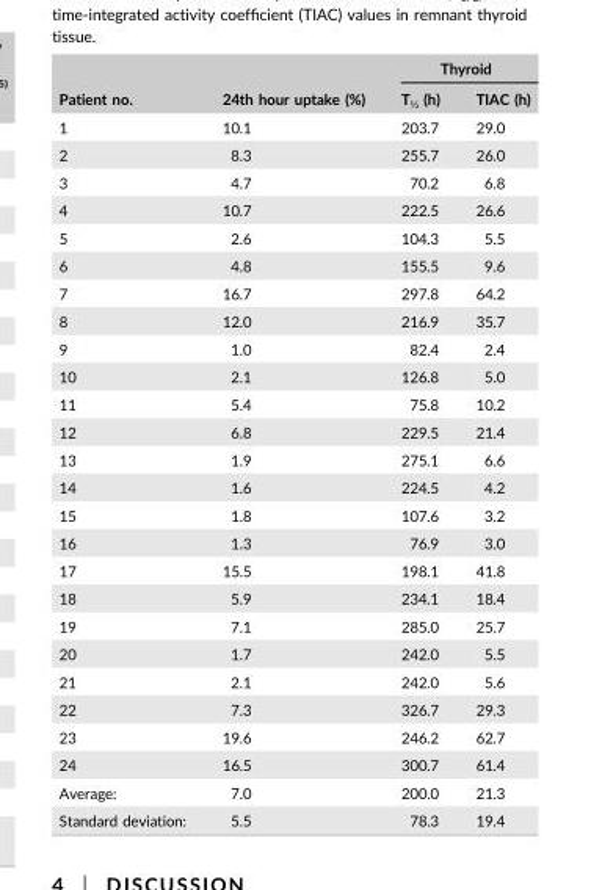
<table><thead><tr><td rowspan="2">Patient no.</td><td rowspan="2">24th hour uptake (%)</td><td colspan="2">Thyroid</td></tr><tr><td>T<sub>½</sub> (h)</td><td>TIAC (h)</td></tr></thead><tbody><tr><td>1</td><td>10.1</td><td>203.7</td><td>29.0</td></tr><tr><td>2</td><td>8.3</td><td>255.7</td><td>26.0</td></tr><tr><td>3</td><td>4.7</td><td>70.2</td><td>6.8</td></tr><tr><td>4</td><td>10.7</td><td>222.5</td><td>26.6</td></tr><tr><td>5</td><td>2.6</td><td>104.3</td><td>5.5</td></tr><tr><td>6</td><td>4.8</td><td>155.5</td><td>9.6</td></tr><tr><td>7</td><td>16.7</td><td>297.8</td><td>64.2</td></tr><tr><td>8</td><td>12.0</td><td>216.9</td><td>35.7</td></tr><tr><td>9</td><td>1.0</td><td>82.4</td><td>2.4</td></tr><tr><td>10</td><td>2.1</td><td>126.8</td><td>5.0</td></tr><tr><td>11</td><td>5.4</td><td>75.8</td><td>10.2</td></tr><tr><td>12</td><td>6.8</td><td>229.5</td><td>21.4</td></tr><tr><td>13</td><td>1.9</td><td>275.1</td><td>6.6</td></tr><tr><td>14</td><td>1.6</td><td>224.5</td><td>4.2</td></tr><tr><td>15</td><td>1.8</td><td>107.6</td><td>3.2</td></tr><tr><td>16</td><td>1.3</td><td>76.9</td><td>3.0</td></tr><tr><td>17</td><td>15.5</td><td>198.1</td><td>41.8</td></tr><tr><td>18</td><td>5.9</td><td>234.1</td><td>18.4</td></tr><tr><td>19</td><td>7.1</td><td>285.0</td><td>25.7</td></tr><tr><td>20</td><td>1.7</td><td>242.0</td><td>5.5</td></tr><tr><td>21</td><td>2.1</td><td>242.0</td><td>5.6</td></tr><tr><td>22</td><td>7.3</td><td>326.7</td><td>29.3</td></tr><tr><td>23</td><td>19.6</td><td>246.2</td><td>62.7</td></tr><tr><td>24</td><td>16.5</td><td>300.7</td><td>61.4</td></tr><tr><td>Average:</td><td>7.0</td><td>200.0</td><td>21.3</td></tr><tr><td>Standard deviation:</td><td>5.5</td><td>78.3</td><td>19.4</td></tr></tbody></table>